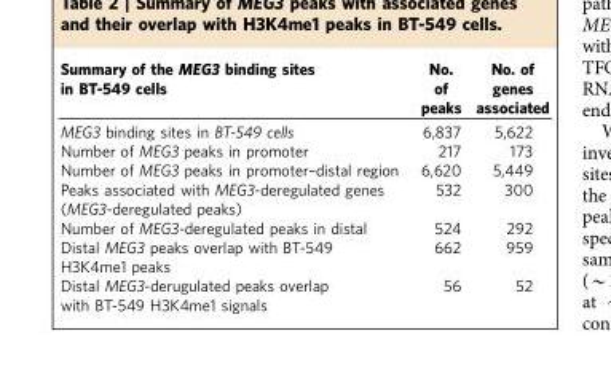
<table><thead><tr><td>Summary of the MEG3 binding sites in BT-549 cells</td><td>No. of peaks</td><td>No. of genes associated</td></tr></thead><tbody><tr><td>MEG3 binding sites in BT-549 cells</td><td>6,837</td><td>5,622</td></tr><tr><td>Number of MEG3 peaks in promoter</td><td>217</td><td>173</td></tr><tr><td>Number of MEG3 peaks in promoter–distal region</td><td>6,620</td><td>5,449</td></tr><tr><td>Peaks associated with MEG3-deregulated genes (MEG3-deregulated peaks)</td><td>532</td><td>300</td></tr><tr><td>Number of MEG3-deregulated peaks in distal</td><td>524</td><td>292</td></tr><tr><td>Distal MEG3 peaks overlap with BT-549 H3K4me1 peaks</td><td>662</td><td>959</td></tr><tr><td>Distal MEG3-derugulated peaks overlap with BT-549 H3K4me1 signals</td><td>56</td><td>52</td></tr></tbody></table>